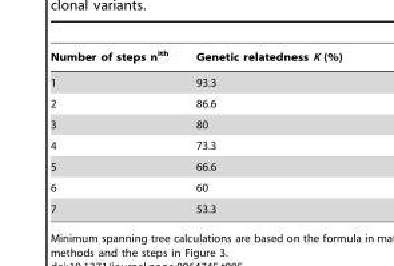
<table><thead><tr><td>Number of steps n<sup>ith</sup></td><td>Genetic relatedness K (%)</td></tr></thead><tbody><tr><td>1</td><td>93.3</td></tr><tr><td>2</td><td>86.6</td></tr><tr><td>3</td><td>80</td></tr><tr><td>4</td><td>73.3</td></tr><tr><td>5</td><td>66.6</td></tr><tr><td>6</td><td>60</td></tr><tr><td>7</td><td>53.3</td></tr></tbody></table>